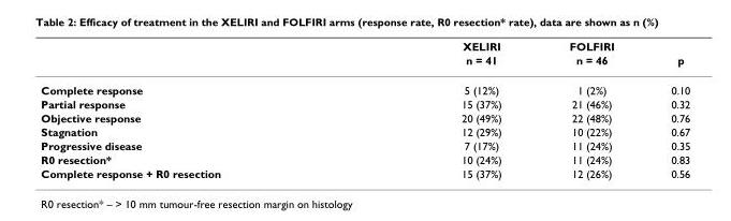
<table><thead><tr><td rowspan="2"></td><td rowspan="2">XELIRI n = 41</td><td rowspan="2">FOLFIRI n = 46</td><td rowspan="2">p</td></tr><tr></tr></thead><tbody><tr><td>Complete response</td><td>5 (12%)</td><td>1 (2%)</td><td>0.10</td></tr><tr><td>Partial response</td><td>15 (37%)</td><td>21 (46%)</td><td>0.32</td></tr><tr><td>Objective response</td><td>20 (49%)</td><td>22 (48%)</td><td>0.76</td></tr><tr><td>Stagnation</td><td>12 (29%)</td><td>10 (22%)</td><td>0.67</td></tr><tr><td>Progressive disease</td><td>7 (17%)</td><td>11 (24%)</td><td>0.35</td></tr><tr><td>R0 resection*</td><td>10 (24%)</td><td>11 (24%)</td><td>0.83</td></tr><tr><td>Complete response + R0 resection</td><td>15 (37%)</td><td>12 (26%)</td><td>0.56</td></tr></tbody></table>